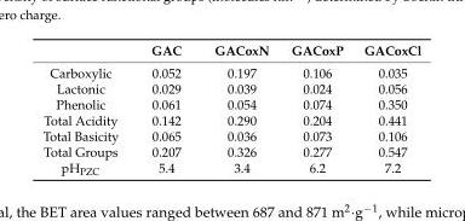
<table><thead><tr><td></td><td>GAC</td><td>GACoxN</td><td>GACoxP</td><td>GACoxCl</td></tr></thead><tbody><tr><td>Carboxylic</td><td>0.052</td><td>0.197</td><td>0.106</td><td>0.035</td></tr><tr><td>Lactonic</td><td>0.029</td><td>0.039</td><td>0.024</td><td>0.056</td></tr><tr><td>Phenolic</td><td>0.061</td><td>0.054</td><td>0.074</td><td>0.350</td></tr><tr><td>Total Acidity</td><td>0.142</td><td>0.290</td><td>0.204</td><td>0.441</td></tr><tr><td>Total Basicity</td><td>0.065</td><td>0.036</td><td>0.073</td><td>0.106</td></tr><tr><td>Total Groups</td><td>0.207</td><td>0.326</td><td>0.277</td><td>0.547</td></tr><tr><td>pH<sub>PZC</sub></td><td>5.4</td><td>3.4</td><td>6.2</td><td>7.2</td></tr></tbody></table>